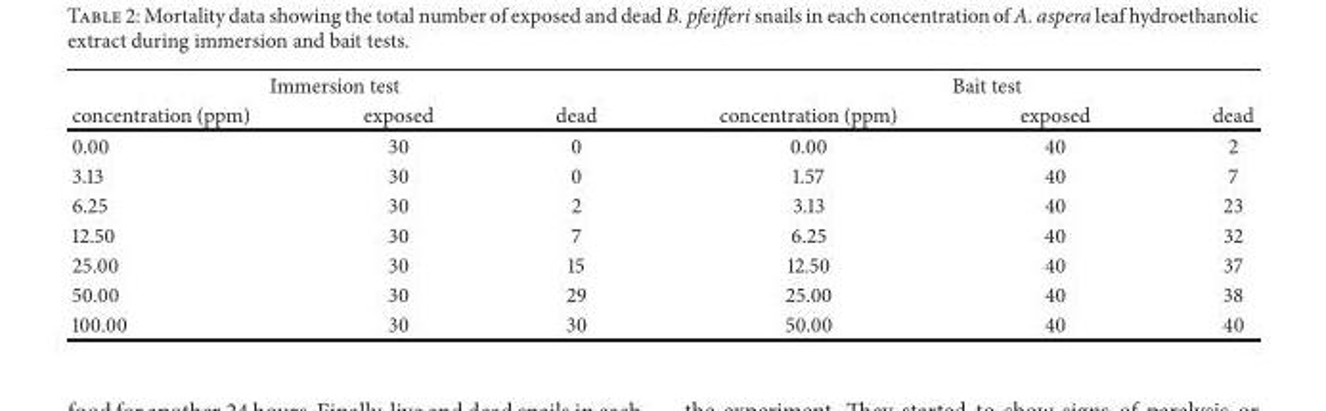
<table><thead><tr><td colspan="3">Immersion test</td><td colspan="3">Bait test</td></tr><tr><td>concentration (ppm)</td><td>exposed</td><td>dead</td><td>concentration (ppm)</td><td>exposed</td><td>dead</td></tr></thead><tbody><tr><td>0.00</td><td>30</td><td>0</td><td>0.00</td><td>40</td><td>2</td></tr><tr><td>3.13</td><td>30</td><td>0</td><td>1.57</td><td>40</td><td>7</td></tr><tr><td>6.25</td><td>30</td><td>2</td><td>3.13</td><td>40</td><td>23</td></tr><tr><td>12.50</td><td>30</td><td>7</td><td>6.25</td><td>40</td><td>32</td></tr><tr><td>25.00</td><td>30</td><td>15</td><td>12.50</td><td>40</td><td>37</td></tr><tr><td>50.00</td><td>30</td><td>29</td><td>25.00</td><td>40</td><td>38</td></tr><tr><td>100.00</td><td>30</td><td>30</td><td>50.00</td><td>40</td><td>40</td></tr></tbody></table>